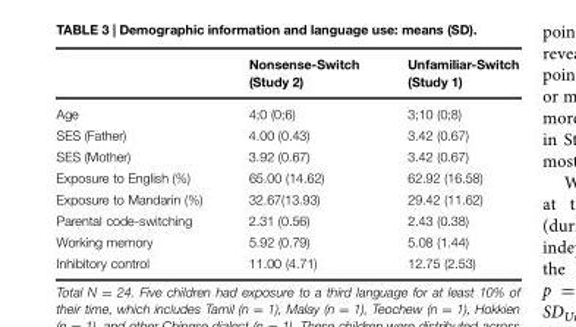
<table><thead><tr><td></td><td>Nonsense-Switch (Study 2)</td><td>Unfamiliar-Switch (Study 1)</td></tr></thead><tbody><tr><td>Age</td><td>4;0 (0;6)</td><td>3;10 (0;8)</td></tr><tr><td>SES (Father)</td><td>4.00 (0.43)</td><td>3.42 (0.67)</td></tr><tr><td>SES (Mother)</td><td>3.92 (0.67)</td><td>3.42 (0.67)</td></tr><tr><td>Exposure to English (%)</td><td>65.00 (14.62)</td><td>62.92 (16.58)</td></tr><tr><td>Exposure to Mandarin (%)</td><td>32.67(13.93)</td><td>29.42 (11.62)</td></tr><tr><td>Parental code-switching</td><td>2.31 (0.56)</td><td>2.43 (0.38)</td></tr><tr><td>Working memory</td><td>5.92 (0.79)</td><td>5.08 (1.44)</td></tr><tr><td>Inhibitory control</td><td>11.00 (4.71)</td><td>12.75 (2.53)</td></tr></tbody></table>